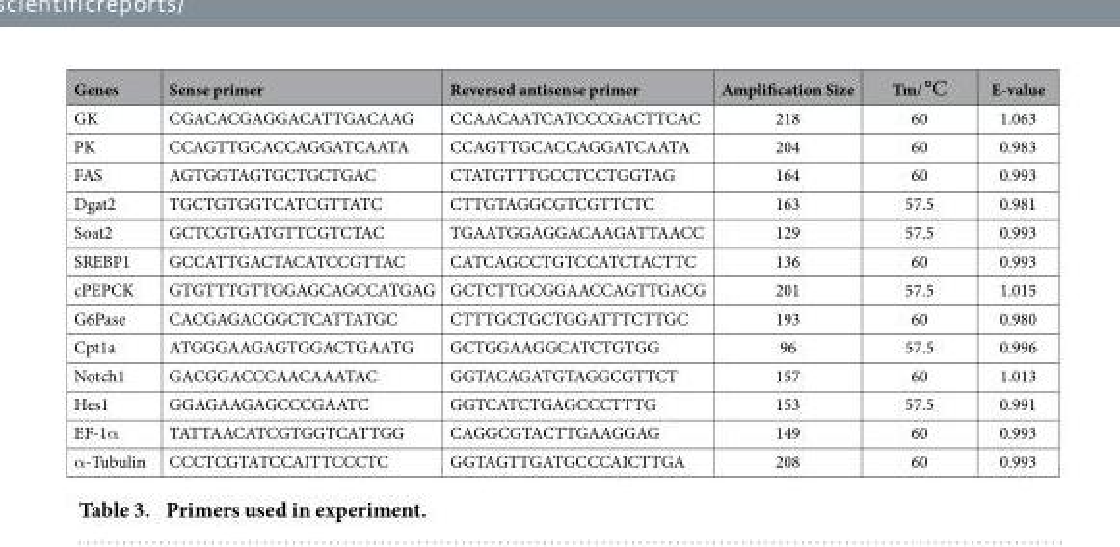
<table><thead><tr><td>Genes</td><td>Sense primer</td><td>Reversed antisense primer</td><td>Amplification Size</td><td>Tm/ °C</td><td>E-value</td></tr></thead><tbody><tr><td>GK</td><td>CGACACGAGGACATTGACAAG</td><td>CCAACAATCATCCCGACTTCAC</td><td>218</td><td>60</td><td>1.063</td></tr><tr><td>PK</td><td>CCAGTTGCACCAGGATCAATA</td><td>CCAGTTGCACCAGGATCAATA</td><td>204</td><td>60</td><td>0.983</td></tr><tr><td>FAS</td><td>AGTGGTAGTGCTGCTGAC</td><td>CTATGTTTGCCTCCTGGTAG</td><td>164</td><td>60</td><td>0.993</td></tr><tr><td>Dgat2</td><td>TGCTGTGGTCATCGTTATC</td><td>CTTGTAGGCGTCGTTCTC</td><td>163</td><td>57.5</td><td>0.981</td></tr><tr><td>Soat2</td><td>GCTCGTGATGTTCGTCTAC</td><td>TGAATGGAGGACAAGATTAACC</td><td>129</td><td>57.5</td><td>0.993</td></tr><tr><td>SREBP1</td><td>GCCATTGACTACATCCGTTAC</td><td>CATCAGCCTGTCCATCTACTTC</td><td>136</td><td>60</td><td>0.993</td></tr><tr><td>cPEPCK</td><td>GTGTTTGTTGGAGCAGCCATGAG</td><td>GCTCTTGCGGAACCAGTTGACG</td><td>201</td><td>57.5</td><td>1.015</td></tr><tr><td>G6Pase</td><td>CACGAGACGGCTCATTATGC</td><td>CTTTGCTGCTGGATTTCTTGC</td><td>193</td><td>60</td><td>0.980</td></tr><tr><td>Cpt1a</td><td>ATGGGAAGAGTGGACTGAATG</td><td>GCTGGAAGGCATCTGTGG</td><td>96</td><td>57.5</td><td>0.996</td></tr><tr><td>Notch1</td><td>GACGGACCCAACAAATAC</td><td>GGTACAGATGTAGGCGTTCT</td><td>157</td><td>60</td><td>1.013</td></tr><tr><td>Hes1</td><td>GGAGAAGAGCCCGAATC</td><td>GGTCATCTGAGCCCTTTG</td><td>153</td><td>57.5</td><td>0.991</td></tr><tr><td>EF-1α</td><td>TATTAACATCGTGGTCATTGG</td><td>CAGGCGTACTTGAAGGAG</td><td>149</td><td>60</td><td>0.993</td></tr><tr><td>α -Tubulin</td><td>CCCTCGTATCCAITTCCCTC</td><td>GGTAGTTGATGCCCAICTTGA</td><td>208</td><td>60</td><td>0.993</td></tr></tbody></table>